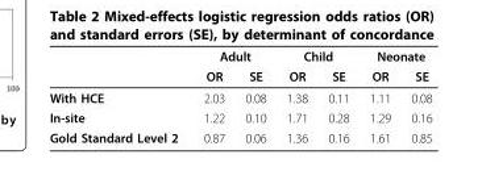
<table><thead><tr><td rowspan="2"></td><td colspan="2">Adult</td><td colspan="2">Child</td><td colspan="2">Neonate</td></tr><tr><td>OR</td><td>SE</td><td>OR</td><td>SE</td><td>OR</td><td>SE</td></tr></thead><tbody><tr><td>With HCE</td><td>2.03</td><td>0.08</td><td>1.38</td><td>0.11</td><td>1.11</td><td>0.08</td></tr><tr><td>In-site</td><td>1.22</td><td>0.10</td><td>1.71</td><td>0.28</td><td>1.29</td><td>0.16</td></tr><tr><td>Gold Standard Level 2</td><td>0.87</td><td>0.06</td><td>1.36</td><td>0.16</td><td>1.61</td><td>0.85</td></tr></tbody></table>